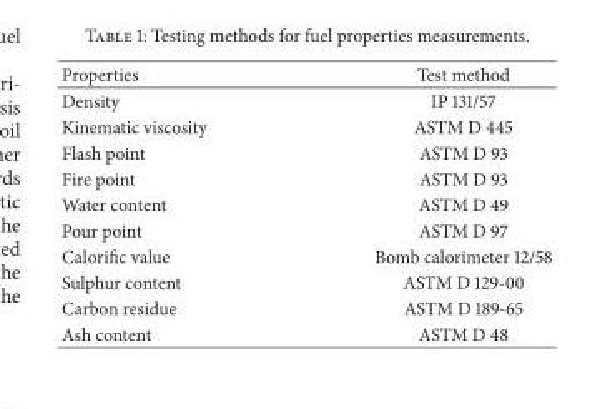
<table><thead><tr><td>Properties</td><td>Test method</td></tr></thead><tbody><tr><td>Density</td><td>IP 131/57</td></tr><tr><td>Kinematic viscosity</td><td>ASTM D 445</td></tr><tr><td>Flash point</td><td>ASTM D 93</td></tr><tr><td>Fire point</td><td>ASTM D 93</td></tr><tr><td>Water content</td><td>ASTM D 49</td></tr><tr><td>Pour point</td><td>ASTM D 97</td></tr><tr><td>Calorific value</td><td>Bomb calorimeter 12/58</td></tr><tr><td>Sulphur content</td><td>ASTM D 129-00</td></tr><tr><td>Carbon residue</td><td>ASTM D 189-65</td></tr><tr><td>Ash content</td><td>ASTM D 48</td></tr></tbody></table>